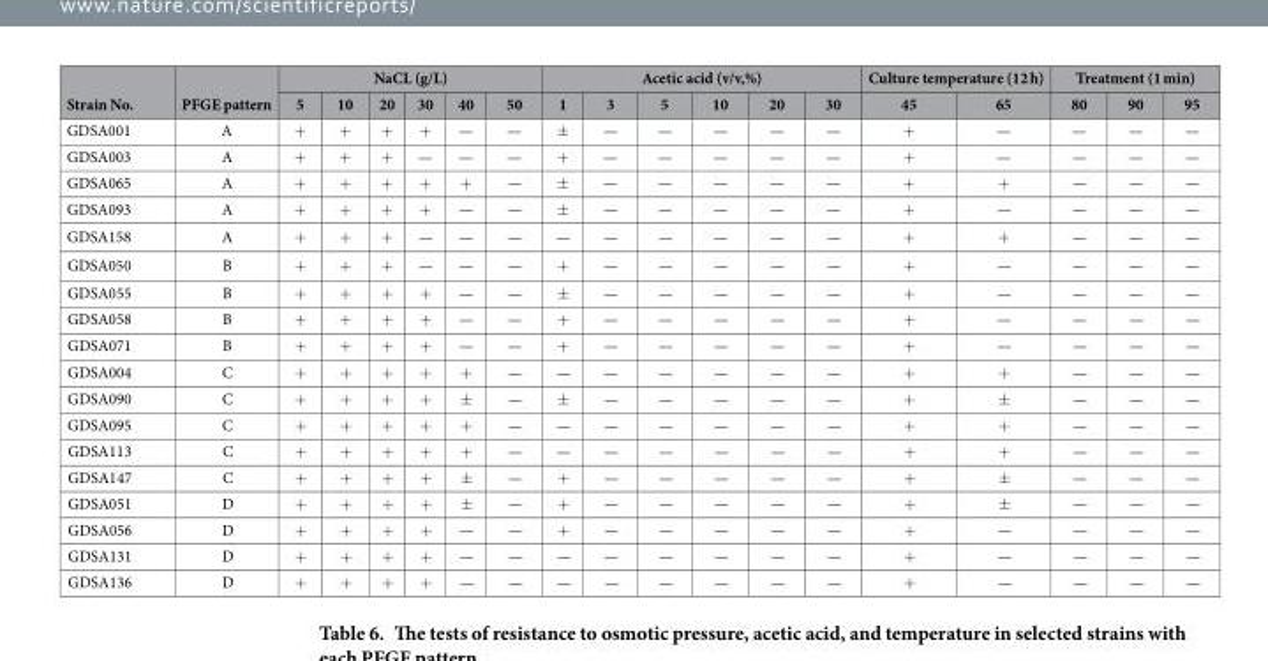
<table><thead><tr><td rowspan="2">Strain No.</td><td rowspan="2">PFGE pattern</td><td colspan="6">NaCL (g/L)</td><td colspan="6">Acetic acid (v/v,%)</td><td colspan="2">Culture temperature (12 h)</td><td colspan="3">Treatment (1 min)</td></tr><tr><td>5</td><td>10</td><td>20</td><td>30</td><td>40</td><td>50</td><td>1</td><td>3</td><td>5</td><td>10</td><td>20</td><td>30</td><td>45</td><td>65</td><td>80</td><td>90</td><td>95</td></tr></thead><tbody><tr><td>GDSA001</td><td>A</td><td>+</td><td>+</td><td>+</td><td>+</td><td>—</td><td>—</td><td>±</td><td>—</td><td>—</td><td>—</td><td>—</td><td>—</td><td>+</td><td>—</td><td>—</td><td>—</td><td>—</td></tr><tr><td>GDSA003</td><td>A</td><td>+</td><td>+</td><td>+</td><td>—</td><td>—</td><td>—</td><td>+</td><td>—</td><td>—</td><td>—</td><td>—</td><td>—</td><td>+</td><td>—</td><td>—</td><td>—</td><td>—</td></tr><tr><td>GDSA065</td><td>A</td><td>+</td><td>+</td><td>+</td><td>+</td><td>+</td><td>—</td><td>±</td><td>—</td><td>—</td><td>—</td><td>—</td><td>—</td><td>+</td><td>+</td><td>—</td><td>—</td><td>—</td></tr><tr><td>GDSA093</td><td>A</td><td>+</td><td>+</td><td>+</td><td>+</td><td>—</td><td>—</td><td>±</td><td>—</td><td>—</td><td>—</td><td>—</td><td>—</td><td>+</td><td>—</td><td>—</td><td>—</td><td>—</td></tr><tr><td>GDSA158</td><td>A</td><td>+</td><td>+</td><td>+</td><td>—</td><td>—</td><td>—</td><td>—</td><td>—</td><td>—</td><td>—</td><td>—</td><td>—</td><td>+</td><td>+</td><td>—</td><td>—</td><td>—</td></tr><tr><td>GDSA050</td><td>B</td><td>+</td><td>+</td><td>+</td><td>—</td><td>—</td><td>—</td><td>+</td><td>—</td><td>—</td><td>—</td><td>—</td><td>—</td><td>+</td><td>—</td><td>—</td><td>—</td><td>—</td></tr><tr><td>GDSA055</td><td>B</td><td>+</td><td>+</td><td>+</td><td>+</td><td>—</td><td>—</td><td>±</td><td>—</td><td>—</td><td>—</td><td>—</td><td>—</td><td>+</td><td>—</td><td>—</td><td>—</td><td>—</td></tr><tr><td>GDSA058</td><td>B</td><td>+</td><td>+</td><td>+</td><td>+</td><td>—</td><td>—</td><td>+</td><td>—</td><td>—</td><td>—</td><td>—</td><td>—</td><td>+</td><td>—</td><td>—</td><td>—</td><td>—</td></tr><tr><td>GDSA071</td><td>B</td><td>+</td><td>+</td><td>+</td><td>+</td><td>—</td><td>—</td><td>+</td><td>—</td><td>—</td><td>—</td><td>—</td><td>—</td><td>+</td><td>—</td><td>—</td><td>—</td><td>—</td></tr><tr><td>GDSA004</td><td>C</td><td>+</td><td>+</td><td>+</td><td>+</td><td>+</td><td>—</td><td>—</td><td>—</td><td>—</td><td>—</td><td>—</td><td>—</td><td>+</td><td>+</td><td>—</td><td>—</td><td>—</td></tr><tr><td>GDSA090</td><td>C</td><td>+</td><td>+</td><td>+</td><td>+</td><td>±</td><td>—</td><td>±</td><td>—</td><td>—</td><td>—</td><td>—</td><td>—</td><td>+</td><td>±</td><td>—</td><td>—</td><td>—</td></tr><tr><td>GDSA095</td><td>C</td><td>+</td><td>+</td><td>+</td><td>+</td><td>+</td><td>—</td><td>—</td><td>—</td><td>—</td><td>—</td><td>—</td><td>—</td><td>+</td><td>+</td><td>—</td><td>—</td><td>—</td></tr><tr><td>GDSA113</td><td>C</td><td>+</td><td>+</td><td>+</td><td>+</td><td>+</td><td>—</td><td>—</td><td>—</td><td>—</td><td>—</td><td>—</td><td>—</td><td>+</td><td>+</td><td>—</td><td>—</td><td>—</td></tr><tr><td>GDSA147</td><td>C</td><td>+</td><td>+</td><td>+</td><td>+</td><td>±</td><td>—</td><td>+</td><td>—</td><td>—</td><td>—</td><td>—</td><td>—</td><td>+</td><td>±</td><td>—</td><td>—</td><td>—</td></tr><tr><td>GDSA051</td><td>D</td><td>+</td><td>+</td><td>+</td><td>+</td><td>±</td><td>—</td><td>+</td><td>—</td><td>—</td><td>—</td><td>—</td><td>—</td><td>+</td><td>±</td><td>—</td><td>—</td><td>—</td></tr><tr><td>GDSA056</td><td>D</td><td>+</td><td>+</td><td>+</td><td>+</td><td>—</td><td>—</td><td>+</td><td>—</td><td>—</td><td>—</td><td>—</td><td>—</td><td>+</td><td>—</td><td>—</td><td>—</td><td>—</td></tr><tr><td>GDSA131</td><td>D</td><td>+</td><td>+</td><td>+</td><td>+</td><td>—</td><td>—</td><td>—</td><td>—</td><td>—</td><td>—</td><td>—</td><td>—</td><td>+</td><td>—</td><td>—</td><td>—</td><td>—</td></tr><tr><td>GDSA136</td><td>D</td><td>+</td><td>+</td><td>+</td><td>+</td><td>—</td><td>—</td><td>—</td><td>—</td><td>—</td><td>—</td><td>—</td><td>—</td><td>+</td><td>—</td><td>—</td><td>—</td><td>—</td></tr></tbody></table>